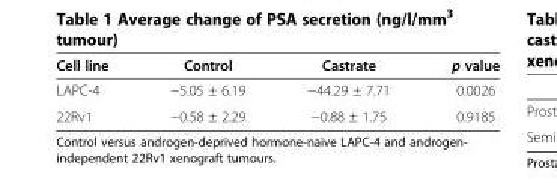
<table><thead><tr><td>Cell line</td><td>Control</td><td>Castrate</td><td>p value</td></tr></thead><tbody><tr><td>LAPC-4</td><td>−5.05 ± 6.19</td><td>−44.29 ± 7.71</td><td>0.0026</td></tr><tr><td>22Rv1</td><td>−0.58 ± 2.29</td><td>−0.88 ± 1.75</td><td>0.9185</td></tr></tbody></table>